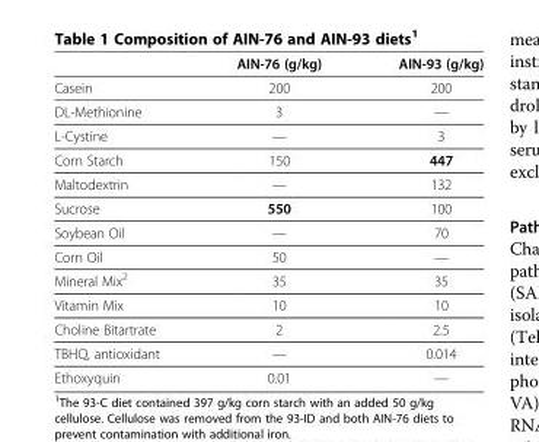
<table><thead><tr><td></td><td>AIN-76 (g/kg)</td><td>AIN-93 (g/kg)</td></tr></thead><tbody><tr><td>Casein</td><td>200</td><td>200</td></tr><tr><td>DL-Methionine</td><td>3</td><td>—</td></tr><tr><td>L-Cystine</td><td>—</td><td>3</td></tr><tr><td>Corn Starch</td><td>150</td><td>447</td></tr><tr><td>Maltodextrin</td><td>—</td><td>132</td></tr><tr><td>Sucrose</td><td>550</td><td>100</td></tr><tr><td>Soybean Oil</td><td>—</td><td>70</td></tr><tr><td>Corn Oil</td><td>50</td><td>—</td></tr><tr><td>Mineral Mix<sup>2</sup></td><td>35</td><td>35</td></tr><tr><td>Vitamin Mix</td><td>10</td><td>10</td></tr><tr><td>Choline Bitartrate</td><td>2</td><td>2.5</td></tr><tr><td>TBHQ, antioxidant</td><td>—</td><td>0.014</td></tr><tr><td>Ethoxyquin</td><td>0.01</td><td>—</td></tr></tbody></table>